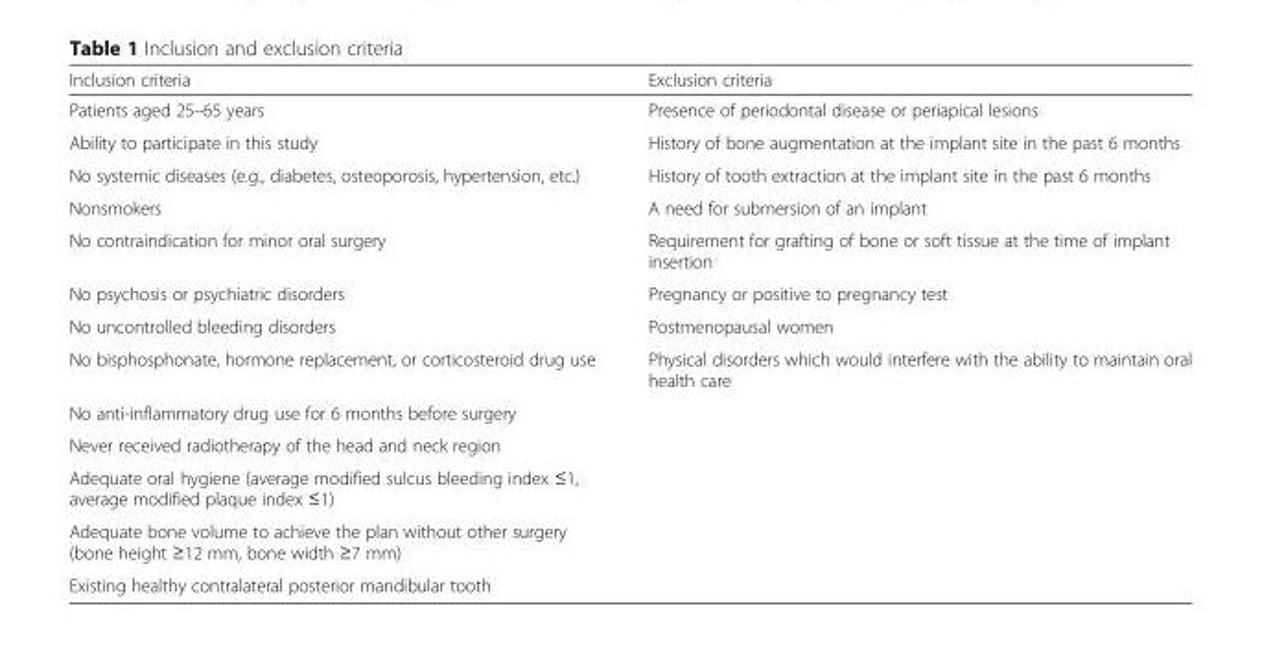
<table><thead><tr><td>Inclusion criteria</td><td>Exclusion criteria</td></tr></thead><tbody><tr><td>Patients aged 25–65 years</td><td>Presence of periodontal disease or periapical lesions</td></tr><tr><td>Ability to participate in this study</td><td>History of bone augmentation at the implant site in the past 6 months</td></tr><tr><td>No systemic diseases (e.g., diabetes, osteoporosis, hypertension, etc.)</td><td>History of tooth extraction at the implant site in the past 6 months</td></tr><tr><td>Nonsmokers</td><td>A need for submersion of an implant</td></tr><tr><td>No contraindication for minor oral surgery</td><td>Requirement for grafting of bone or soft tissue at the time of implant insertion</td></tr><tr><td>No psychosis or psychiatric disorders</td><td>Pregnancy or positive to pregnancy test</td></tr><tr><td>No uncontrolled bleeding disorders</td><td>Postmenopausal women</td></tr><tr><td>No bisphosphonate, hormone replacement, or corticosteroid drug use</td><td>Physical disorders which would interfere with the ability to maintain oral health care</td></tr><tr><td colspan="2">No anti-inflammatory drug use for 6 months before surgery</td></tr><tr><td colspan="2">Never received radiotherapy of the head and neck region</td></tr><tr><td colspan="2">Adequate oral hygiene (average modified sulcus bleeding index ≤1, average modified plaque index ≤1)</td></tr><tr><td colspan="2">Adequate bone volume to achieve the plan without other surgery (bone height ≥12 mm, bone width ≥7 mm)</td></tr><tr><td>Existing healthy contralateral posterior mandibular tooth</td><td></td></tr></tbody></table>